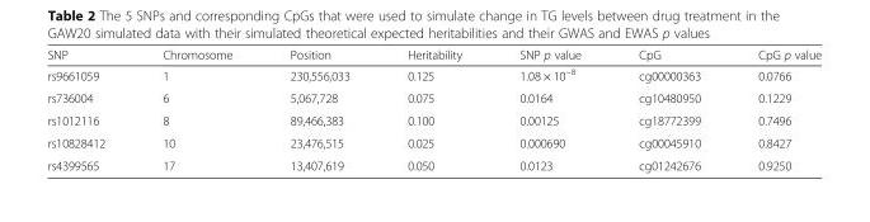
<table><thead><tr><td>SNP</td><td>Chromosome</td><td>Position</td><td>Heritability</td><td>SNP p value</td><td>CpG</td><td>CpG p value</td></tr></thead><tbody><tr><td>rs9661059</td><td>1</td><td>230,556,033</td><td>0.125</td><td>1.08 × 10<sup>−8</sup></td><td>cg00000363</td><td>0.0766</td></tr><tr><td>rs736004</td><td>6</td><td>5,067,728</td><td>0.075</td><td>0.0164</td><td>cg10480950</td><td>0.1229</td></tr><tr><td>rs1012116</td><td>8</td><td>89,466,383</td><td>0.100</td><td>0.00125</td><td>cg18772399</td><td>0.7496</td></tr><tr><td>rs10828412</td><td>10</td><td>23,476,515</td><td>0.025</td><td>0.000690</td><td>cg00045910</td><td>0.8427</td></tr><tr><td>rs4399565</td><td>17</td><td>13,407,619</td><td>0.050</td><td>0.0123</td><td>cg01242676</td><td>0.9250</td></tr></tbody></table>